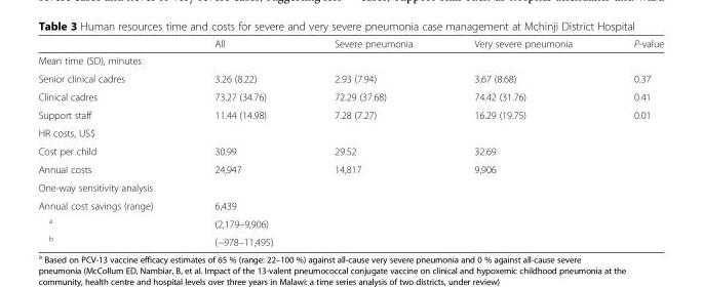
<table><thead><tr><td></td><td>All</td><td>Severe pneumonia</td><td>Very severe pneumonia</td><td>P-value</td></tr></thead><tbody><tr><td colspan="5">Mean time (SD), minutes</td></tr><tr><td>Senior clinical cadres</td><td>3.26 (8.22)</td><td>2.93 (7.94)</td><td>3.67 (8.68)</td><td>0.37</td></tr><tr><td>Clinical cadres</td><td>73.27 (34.76)</td><td>72.29 (37.68)</td><td>74.42 (31.76)</td><td>0.41</td></tr><tr><td>Support staff</td><td>11.44 (14.98)</td><td>7.28 (7.27)</td><td>16.29 (19.75)</td><td>0.01</td></tr><tr><td colspan="5">HR costs, US$</td></tr><tr><td>Cost per child</td><td>30.99</td><td>29.52</td><td>32.69</td><td></td></tr><tr><td>Annual costs</td><td>24,947</td><td>14,817</td><td>9,906</td><td></td></tr><tr><td colspan="5">One-way sensitivity analysis</td></tr><tr><td>Annual cost savings (range)</td><td>6,439</td><td></td><td></td><td></td></tr><tr><td><sup>a</sup></td><td>(2,179–9,906)</td><td></td><td></td><td></td></tr><tr><td><sup>b</sup></td><td>(−978–11,495)</td><td></td><td></td><td></td></tr></tbody></table>